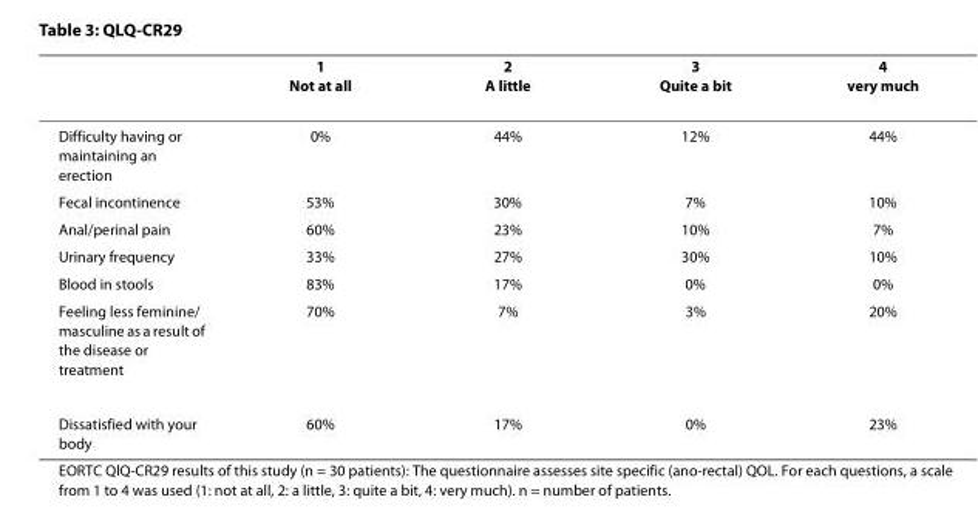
<table><thead><tr><td></td><td>1 Not at all</td><td>2 A little</td><td>3 Quite a bit</td><td>4 very much</td></tr></thead><tbody><tr><td>Difficulty having or maintaining an erection</td><td>0%</td><td>44%</td><td>12%</td><td>44%</td></tr><tr><td>Fecal incontinence</td><td>53%</td><td>30%</td><td>7%</td><td>10%</td></tr><tr><td>Anal/perinal pain</td><td>60%</td><td>23%</td><td>10%</td><td>7%</td></tr><tr><td>Urinary frequency</td><td>33%</td><td>27%</td><td>30%</td><td>10%</td></tr><tr><td>Blood in stools</td><td>83%</td><td>17%</td><td>0%</td><td>0%</td></tr><tr><td>Feeling less feminine/ masculine as a result of the disease or treatment</td><td>70%</td><td>7%</td><td>3%</td><td>20%</td></tr><tr><td>Dissatisfied with your body</td><td>60%</td><td>17%</td><td>0%</td><td>23%</td></tr></tbody></table>